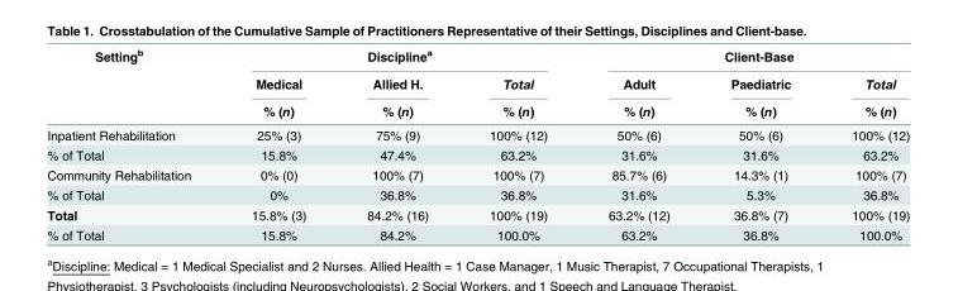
<table><thead><tr><td rowspan="3">Setting<sup>b</sup></td><td colspan="3">Discipline<sup>a</sup></td><td colspan="3">Client-Base</td></tr><tr><td rowspan="2">Medical % (n)</td><td rowspan="2">Allied H. % (n)</td><td rowspan="2">Total % (n)</td><td rowspan="2">Adult % (n)</td><td rowspan="2">Paediatric % (n)</td><td rowspan="2">Total % (n)</td></tr><tr></tr></thead><tbody><tr><td>Inpatient Rehabilitation</td><td>25% (3)</td><td>75% (9)</td><td>100% (12)</td><td>50% (6)</td><td>50% (6)</td><td>100% (12)</td></tr><tr><td>% of Total</td><td>15.8%</td><td>47.4%</td><td>63.2%</td><td>31.6%</td><td>31.6%</td><td>63.2%</td></tr><tr><td>Community Rehabilitation</td><td>0% (0)</td><td>100% (7)</td><td>100% (7)</td><td>85.7% (6)</td><td>14.3% (1)</td><td>100% (7)</td></tr><tr><td>% of Total</td><td>0%</td><td>36.8%</td><td>36.8%</td><td>31.6%</td><td>5.3%</td><td>36.8%</td></tr><tr><td>Total</td><td>15.8% (3)</td><td>84.2% (16)</td><td>100% (19)</td><td>63.2% (12)</td><td>36.8% (7)</td><td>100% (19)</td></tr><tr><td>% of Total</td><td>15.8%</td><td>84.2%</td><td>100.0%</td><td>63.2%</td><td>36.8%</td><td>100.0%</td></tr></tbody></table>